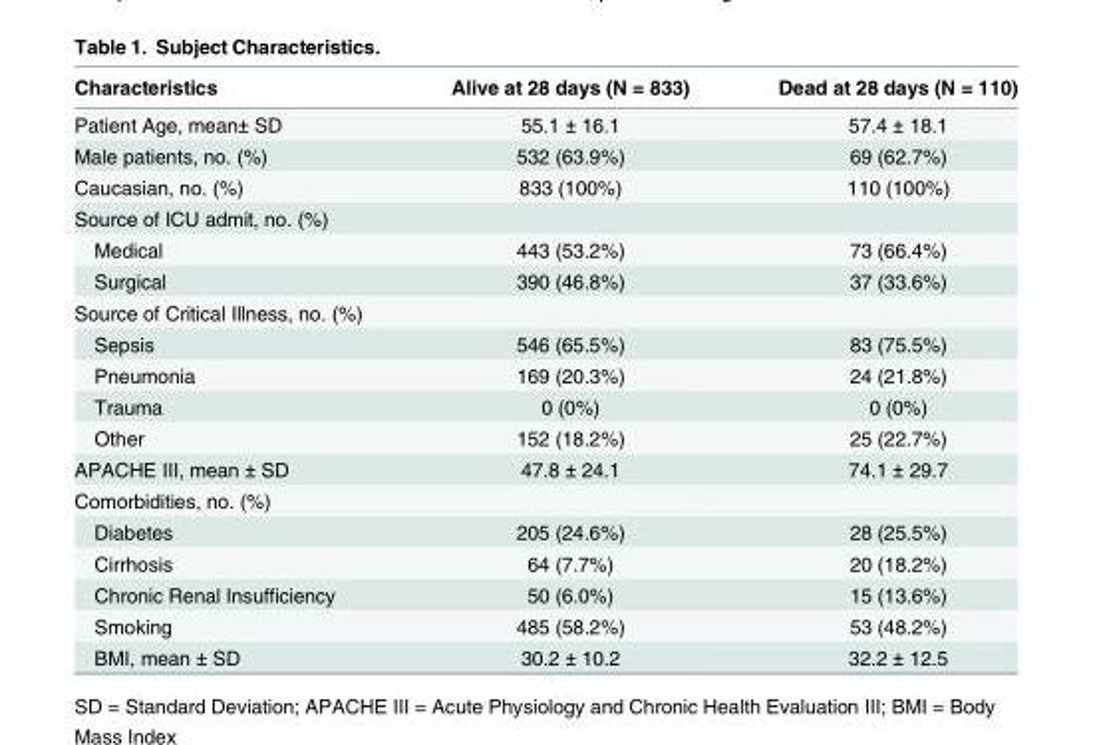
<table><thead><tr><td>Characteristics</td><td>Alive at 28 days (N = 833)</td><td>Dead at 28 days (N = 110)</td></tr></thead><tbody><tr><td>Patient Age, mean± SD</td><td>55.1 ± 16.1</td><td>57.4 ± 18.1</td></tr><tr><td>Male patients, no. (%)</td><td>532 (63.9%)</td><td>69 (62.7%)</td></tr><tr><td>Caucasian, no. (%)</td><td>833 (100%)</td><td>110 (100%)</td></tr><tr><td colspan="3">Source of ICU admit, no. (%)</td></tr><tr><td>Medical</td><td>443 (53.2%)</td><td>73 (66.4%)</td></tr><tr><td>Surgical</td><td>390 (46.8%)</td><td>37 (33.6%)</td></tr><tr><td colspan="3">Source of Critical Illness, no. (%)</td></tr><tr><td>Sepsis</td><td>546 (65.5%)</td><td>83 (75.5%)</td></tr><tr><td>Pneumonia</td><td>169 (20.3%)</td><td>24 (21.8%)</td></tr><tr><td>Trauma</td><td>0 (0%)</td><td>0 (0%)</td></tr><tr><td>Other</td><td>152 (18.2%)</td><td>25 (22.7%)</td></tr><tr><td>APACHE III, mean ± SD</td><td>47.8 ± 24.1</td><td>74.1 ± 29.7</td></tr><tr><td colspan="3">Comorbidities, no. (%)</td></tr><tr><td>Diabetes</td><td>205 (24.6%)</td><td>28 (25.5%)</td></tr><tr><td>Cirrhosis</td><td>64 (7.7%)</td><td>20 (18.2%)</td></tr><tr><td>Chronic Renal Insufficiency</td><td>50 (6.0%)</td><td>15 (13.6%)</td></tr><tr><td>Smoking</td><td>485 (58.2%)</td><td>53 (48.2%)</td></tr><tr><td>BMI, mean ± SD</td><td>30.2 ± 10.2</td><td>32.2 ± 12.5</td></tr></tbody></table>